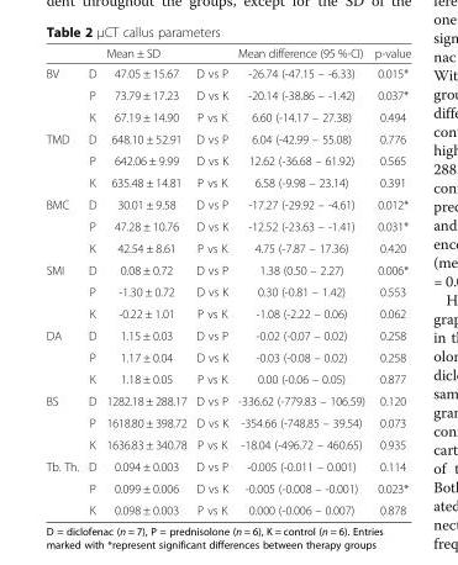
<table><thead><tr><td></td><td></td><td>Mean ± SD</td><td></td><td>Mean difference (95 %-CI)</td><td>p-value</td></tr></thead><tbody><tr><td rowspan="3">BV</td><td>D</td><td>47.05 ± 15.67</td><td>D vs P</td><td>-26.74 (-47.15 – -6.33)</td><td>0.015*</td></tr><tr><td>P</td><td>73.79 ± 17.23</td><td>D vs K</td><td>-20.14 (-38.86 – -1.42)</td><td>0.037*</td></tr><tr><td>K</td><td>67.19 ± 14.90</td><td>P vs K</td><td>6.60 (-14.17 – 27.38)</td><td>0.494</td></tr><tr><td rowspan="3">TMD</td><td>D</td><td>648.10 ± 52.91</td><td>D vs P</td><td>6.04 (-42.99 – 55.08)</td><td>0.776</td></tr><tr><td>P</td><td>642.06 ± 9.99</td><td>D vs K</td><td>12.62 (-36.68 – 61.92)</td><td>0.565</td></tr><tr><td>K</td><td>635.48 ± 14.81</td><td>P vs K</td><td>6.58 (-9.98 – 23.14)</td><td>0.391</td></tr><tr><td rowspan="3">BMC</td><td>D</td><td>30.01 ± 9.58</td><td>D vs P</td><td>-17.27 (-29.92 – -4.61)</td><td>0.012*</td></tr><tr><td>P</td><td>47.28 ± 10.76</td><td>D vs K</td><td>-12.52 (-23.63 – -1.41)</td><td>0.031*</td></tr><tr><td>K</td><td>42.54 ± 8.61</td><td>P vs K</td><td>4.75 (-7.87 – 17.36)</td><td>0.420</td></tr><tr><td rowspan="3">SMI</td><td>D</td><td>0.08 ± 0.72</td><td>D vs P</td><td>1.38 (0.50 – 2.27)</td><td>0.006*</td></tr><tr><td>P</td><td>-1.30 ± 0.72</td><td>D vs K</td><td>0.30 (-0.81 – 1.42)</td><td>0.553</td></tr><tr><td>K</td><td>-0.22 ± 1.01</td><td>P vs K</td><td>-1.08 (-2.22 – 0.06)</td><td>0.062</td></tr><tr><td rowspan="3">DA</td><td>D</td><td>1.15 ± 0.03</td><td>D vs P</td><td>-0.02 (-0.07 – 0.02)</td><td>0.258</td></tr><tr><td>P</td><td>1.17 ± 0.04</td><td>D vs K</td><td>-0.03 (-0.08 – 0.02)</td><td>0.258</td></tr><tr><td>K</td><td>1.18 ± 0.05</td><td>P vs K</td><td>0.00 (-0.06 – 0.05)</td><td>0.877</td></tr><tr><td rowspan="3">BS</td><td>D</td><td>1282.18 ± 288.17</td><td>D vs P</td><td>-336.62 (-779.83 – 106.59)</td><td>0.120</td></tr><tr><td>P</td><td>1618.80 ± 398.72</td><td>D vs K</td><td>-354.66 (-748.85 – 39.54)</td><td>0.073</td></tr><tr><td>K</td><td>1636.83 ± 340.78</td><td>P vs K</td><td>-18.04 (-496.72 – 460.65)</td><td>0.935</td></tr><tr><td rowspan="3">Tb. Th.</td><td>D</td><td>0.094 ± 0.003</td><td>D vs P</td><td>-0.005 (-0.011 – 0.001)</td><td>0.114</td></tr><tr><td>P</td><td>0.099 ± 0.006</td><td>D vs K</td><td>-0.005 (-0.008 – -0.001)</td><td>0.023*</td></tr><tr><td>K</td><td>0.098 ± 0.003</td><td>P vs K</td><td>0.000 (-0.006 – 0.007)</td><td>0.878</td></tr></tbody></table>